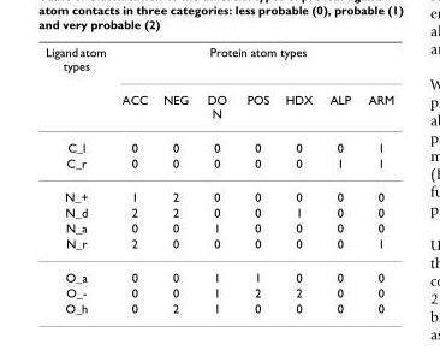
<table><thead><tr><td rowspan="2">Ligand atom types</td><td colspan="7">Protein atom types</td></tr><tr><td>ACC</td><td>NEG</td><td>DO N</td><td>POS</td><td>HDX</td><td>ALP</td><td>ARM</td></tr></thead><tbody><tr><td>C_l</td><td>0</td><td>0</td><td>0</td><td>0</td><td>0</td><td>0</td><td>1</td></tr><tr><td>C_r</td><td>0</td><td>0</td><td>0</td><td>0</td><td>0</td><td>1</td><td>1</td></tr><tr><td>N_+</td><td>1</td><td>2</td><td>0</td><td>0</td><td>0</td><td>0</td><td>0</td></tr><tr><td>N_d</td><td>2</td><td>2</td><td>0</td><td>0</td><td>1</td><td>0</td><td>0</td></tr><tr><td>N_a</td><td>0</td><td>0</td><td>1</td><td>0</td><td>0</td><td>0</td><td>0</td></tr><tr><td>N_r</td><td>2</td><td>0</td><td>0</td><td>0</td><td>0</td><td>0</td><td>1</td></tr><tr><td>O_a</td><td>0</td><td>0</td><td>1</td><td>1</td><td>0</td><td>0</td><td>0</td></tr><tr><td>O_-</td><td>0</td><td>0</td><td>1</td><td>2</td><td>2</td><td>0</td><td>0</td></tr><tr><td>O_h</td><td>0</td><td>2</td><td>1</td><td>0</td><td>0</td><td>0</td><td>0</td></tr></tbody></table>